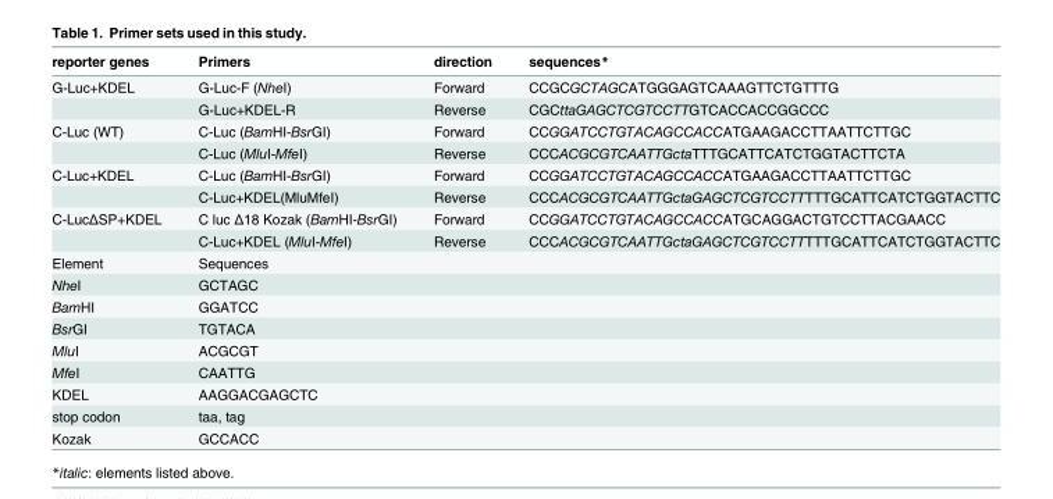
<table><thead><tr><td>reporter genes</td><td>Primers</td><td>direction</td><td>sequences*</td></tr></thead><tbody><tr><td rowspan="2">G-Luc+KDEL</td><td>G-Luc-F (NheI)</td><td>Forward</td><td>CCGCGCTAGCATGGGAGTCAAAGTTCTGTTTG</td></tr><tr><td>G-Luc+KDEL-R</td><td>Reverse</td><td>CGCttaGAGCTCGTCCTTGTCACCACCGGCCC</td></tr><tr><td rowspan="2">C-Luc (WT)</td><td>C-Luc (BamHI-BsrGI)</td><td>Forward</td><td>CCGGATCCTGTACAGCCACCATGAAGACCTTAATTCTTGC</td></tr><tr><td>C-Luc (MluI-MfeI)</td><td>Reverse</td><td>CCCACGCGTCAATTGctaTTTGCATTCATCTGGTACTTCTA</td></tr><tr><td rowspan="2">C-Luc+KDEL</td><td>C-Luc (BamHI-BsrGI)</td><td>Forward</td><td>CCGGATCCTGTACAGCCACCATGAAGACCTTAATTCTTGC</td></tr><tr><td>C-Luc+KDEL(MluMfeI)</td><td>Reverse</td><td>CCCACGCGTCAATTGctaGAGCTCGTCCTTTTTGCATTCATCTGGTACTTC</td></tr><tr><td rowspan="2">C-LucΔSP+KDEL</td><td>C luc Δ18 Kozak (BamHI-BsrGI)</td><td>Forward</td><td>CCGGATCCTGTACAGCCACCATGCAGGACTGTCCTTACGAACC</td></tr><tr><td>C-Luc+KDEL (MluI-MfeI)</td><td>Reverse</td><td>CCCACGCGTCAATTGctaGAGCTCGTCCTTTTTGCATTCATCTGGTACTTC</td></tr><tr><td>Element</td><td>Sequences</td><td></td><td></td></tr><tr><td>NheI</td><td>GCTAGC</td><td></td><td></td></tr><tr><td>BamHI</td><td>GGATCC</td><td></td><td></td></tr><tr><td>BsrGI</td><td>TGTACA</td><td></td><td></td></tr><tr><td>MluI</td><td>ACGCGT</td><td></td><td></td></tr><tr><td>MfeI</td><td>CAATTG</td><td></td><td></td></tr><tr><td>KDEL</td><td>AAGGACGAGCTC</td><td></td><td></td></tr><tr><td>stop codon</td><td>taa, tag</td><td></td><td></td></tr><tr><td>Kozak</td><td>GCCACC</td><td></td><td></td></tr></tbody></table>